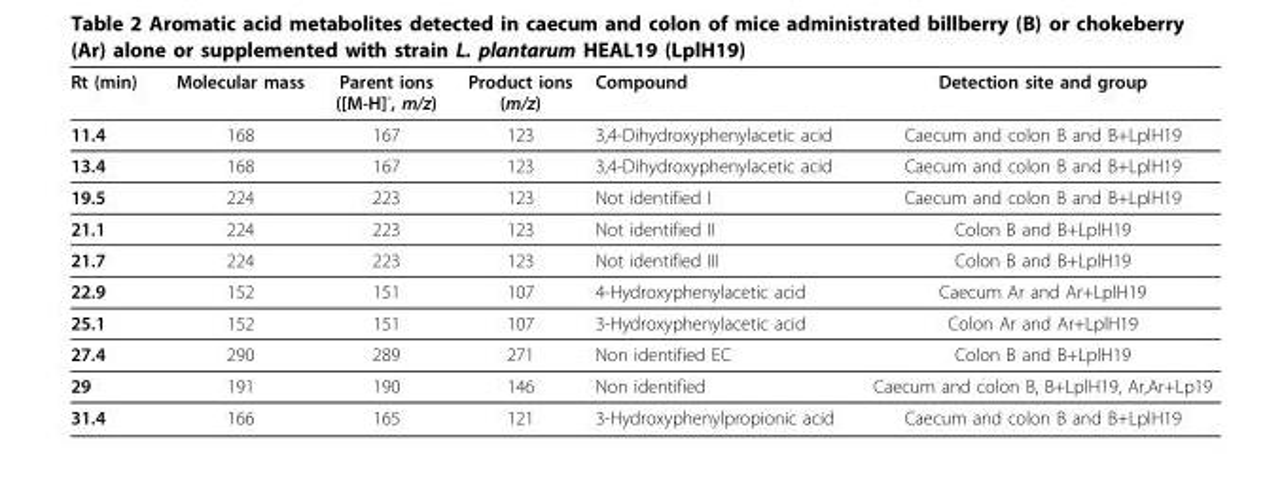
<table><thead><tr><td>Rt (min)</td><td>Molecular mass</td><td>Parent ions ([M-H]<sup>-</sup>, m/z)</td><td>Product ions (m/z)</td><td>Compound</td><td>Detection site and group</td></tr></thead><tbody><tr><td>11.4</td><td>168</td><td>167</td><td>123</td><td>3,4-Dihydroxyphenylacetic acid</td><td>Caecum and colon B and B+LplH19</td></tr><tr><td>13.4</td><td>168</td><td>167</td><td>123</td><td>3,4-Dihydroxyphenylacetic acid</td><td>Caecum and colon B and B+LplH19</td></tr><tr><td>19.5</td><td>224</td><td>223</td><td>123</td><td>Not identified I</td><td>Caecum and colon B and B+LplH19</td></tr><tr><td>21.1</td><td>224</td><td>223</td><td>123</td><td>Not identified II</td><td>Colon B and B+LplH19</td></tr><tr><td>21.7</td><td>224</td><td>223</td><td>123</td><td>Not identified III</td><td>Colon B and B+LplH19</td></tr><tr><td>22.9</td><td>152</td><td>151</td><td>107</td><td>4-Hydroxyphenylacetic acid</td><td>Caecum Ar and Ar+LplH19</td></tr><tr><td>25.1</td><td>152</td><td>151</td><td>107</td><td>3-Hydroxyphenylacetic acid</td><td>Colon Ar and Ar+LplH19</td></tr><tr><td>27.4</td><td>290</td><td>289</td><td>271</td><td>Non identified EC</td><td>Colon B and B+LplH19</td></tr><tr><td>29</td><td>191</td><td>190</td><td>146</td><td>Non identified</td><td>Caecum and colon B, B+LplH19, Ar,Ar+Lp19</td></tr><tr><td>31.4</td><td>166</td><td>165</td><td>121</td><td>3-Hydroxyphenylpropionic acid</td><td>Caecum and colon B and B+LplH19</td></tr></tbody></table>